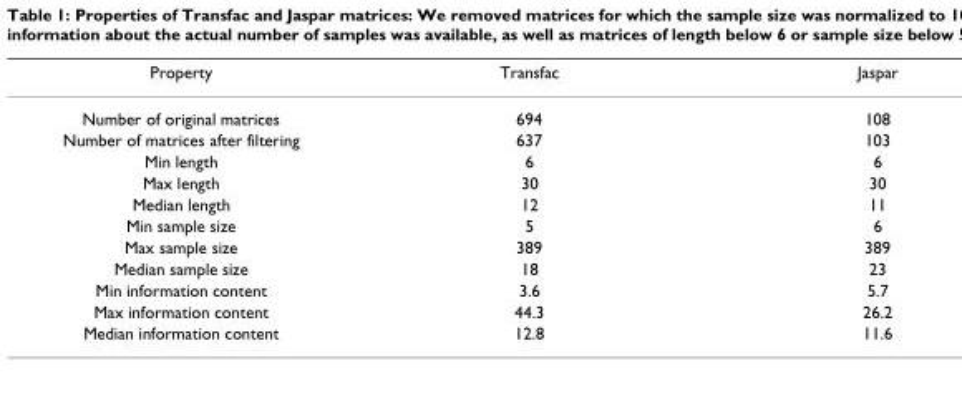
<table><thead><tr><td>Property</td><td>Transfac</td><td>Jaspar</td></tr></thead><tbody><tr><td>Number of original matrices</td><td>694</td><td>108</td></tr><tr><td>Number of matrices after filtering</td><td>637</td><td>103</td></tr><tr><td>Min length</td><td>6</td><td>6</td></tr><tr><td>Max length</td><td>30</td><td>30</td></tr><tr><td>Median length</td><td>12</td><td>11</td></tr><tr><td>Min sample size</td><td>5</td><td>6</td></tr><tr><td>Max sample size</td><td>389</td><td>389</td></tr><tr><td>Median sample size</td><td>18</td><td>23</td></tr><tr><td>Min information content</td><td>3.6</td><td>5.7</td></tr><tr><td>Max information content</td><td>44.3</td><td>26.2</td></tr><tr><td>Median information content</td><td>12.8</td><td>11.6</td></tr></tbody></table>